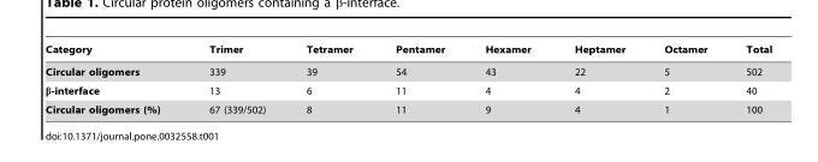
<table><thead><tr><td>Category</td><td>Trimer</td><td>Tetramer</td><td>Pentamer</td><td>Hexamer</td><td>Heptamer</td><td>Octamer</td><td>Total</td></tr></thead><tbody><tr><td>Circular oligomers</td><td>339</td><td>39</td><td>54</td><td>43</td><td>22</td><td>5</td><td>502</td></tr><tr><td>β-interface</td><td>13</td><td>6</td><td>11</td><td>4</td><td>4</td><td>2</td><td>40</td></tr><tr><td>Circular oligomers (%)</td><td>67 (339/502)</td><td>8</td><td>11</td><td>9</td><td>4</td><td>1</td><td>100</td></tr></tbody></table>